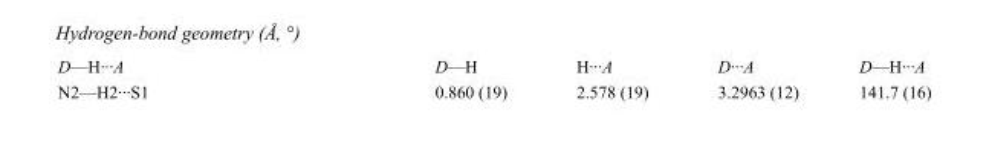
<table><tbody><tr><td>D—H···A</td><td>D—H</td><td>H···A</td><td>D···A</td><td>D—H···A</td></tr><tr><td>N2—H2···S1</td><td>0.860 (19)</td><td>2.578 (19)</td><td>3.2963 (12)</td><td>141.7 (16)</td></tr></tbody></table>